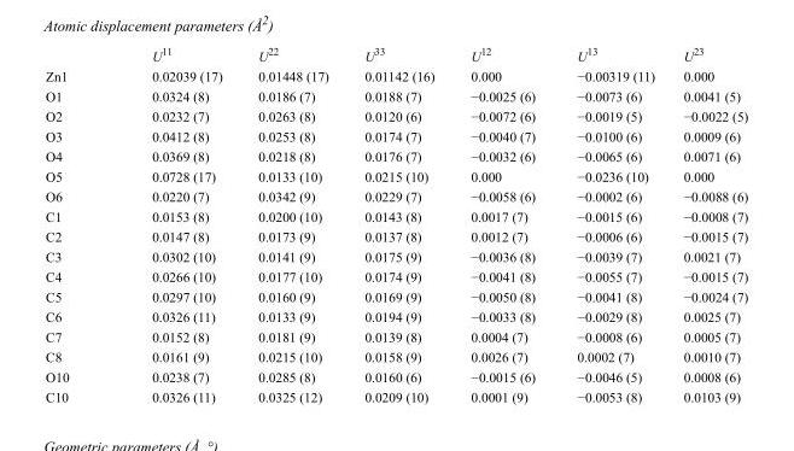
<table><thead><tr><td></td><td>U<sup>11</sup></td><td>U<sup>22</sup></td><td>U<sup>33</sup></td><td>U<sup>12</sup></td><td>U<sup>13</sup></td><td>U<sup>23</sup></td></tr></thead><tbody><tr><td>Zn1</td><td>0.02039 (17)</td><td>0.01448 (17)</td><td>0.01142 (16)</td><td>0.000</td><td>−0.00319 (11)</td><td>0.000</td></tr><tr><td>O1</td><td>0.0324 (8)</td><td>0.0186 (7)</td><td>0.0188 (7)</td><td>−0.0025 (6)</td><td>−0.0073 (6)</td><td>0.0041 (5)</td></tr><tr><td>O2</td><td>0.0232 (7)</td><td>0.0263 (8)</td><td>0.0120 (6)</td><td>−0.0072 (6)</td><td>−0.0019 (5)</td><td>−0.0022 (5)</td></tr><tr><td>O3</td><td>0.0412 (8)</td><td>0.0253 (8)</td><td>0.0174 (7)</td><td>−0.0040 (7)</td><td>−0.0100 (6)</td><td>0.0009 (6)</td></tr><tr><td>O4</td><td>0.0369 (8)</td><td>0.0218 (8)</td><td>0.0176 (7)</td><td>−0.0032 (6)</td><td>−0.0065 (6)</td><td>0.0071 (6)</td></tr><tr><td>O5</td><td>0.0728 (17)</td><td>0.0133 (10)</td><td>0.0215 (10)</td><td>0.000</td><td>−0.0236 (10)</td><td>0.000</td></tr><tr><td>O6</td><td>0.0220 (7)</td><td>0.0342 (9)</td><td>0.0229 (7)</td><td>−0.0058 (6)</td><td>−0.0002 (6)</td><td>−0.0088 (6)</td></tr><tr><td>C1</td><td>0.0153 (8)</td><td>0.0200 (10)</td><td>0.0143 (8)</td><td>0.0017 (7)</td><td>−0.0015 (6)</td><td>−0.0008 (7)</td></tr><tr><td>C2</td><td>0.0147 (8)</td><td>0.0173 (9)</td><td>0.0137 (8)</td><td>0.0012 (7)</td><td>−0.0006 (6)</td><td>−0.0015 (7)</td></tr><tr><td>C3</td><td>0.0302 (10)</td><td>0.0141 (9)</td><td>0.0175 (9)</td><td>−0.0036 (8)</td><td>−0.0039 (7)</td><td>0.0021 (7)</td></tr><tr><td>C4</td><td>0.0266 (10)</td><td>0.0177 (10)</td><td>0.0174 (9)</td><td>−0.0041 (8)</td><td>−0.0055 (7)</td><td>−0.0015 (7)</td></tr><tr><td>C5</td><td>0.0297 (10)</td><td>0.0160 (9)</td><td>0.0169 (9)</td><td>−0.0050 (8)</td><td>−0.0041 (8)</td><td>−0.0024 (7)</td></tr><tr><td>C6</td><td>0.0326 (11)</td><td>0.0133 (9)</td><td>0.0194 (9)</td><td>−0.0033 (8)</td><td>−0.0029 (8)</td><td>0.0025 (7)</td></tr><tr><td>C7</td><td>0.0152 (8)</td><td>0.0181 (9)</td><td>0.0139 (8)</td><td>0.0004 (7)</td><td>−0.0008 (6)</td><td>0.0005 (7)</td></tr><tr><td>C8</td><td>0.0161 (9)</td><td>0.0215 (10)</td><td>0.0158 (9)</td><td>0.0026 (7)</td><td>0.0002 (7)</td><td>0.0010 (7)</td></tr><tr><td>O10</td><td>0.0238 (7)</td><td>0.0285 (8)</td><td>0.0160 (6)</td><td>−0.0015 (6)</td><td>−0.0046 (5)</td><td>0.0008 (6)</td></tr><tr><td>C10</td><td>0.0326 (11)</td><td>0.0325 (12)</td><td>0.0209 (10)</td><td>0.0001 (9)</td><td>−0.0053 (8)</td><td>0.0103 (9)</td></tr></tbody></table>